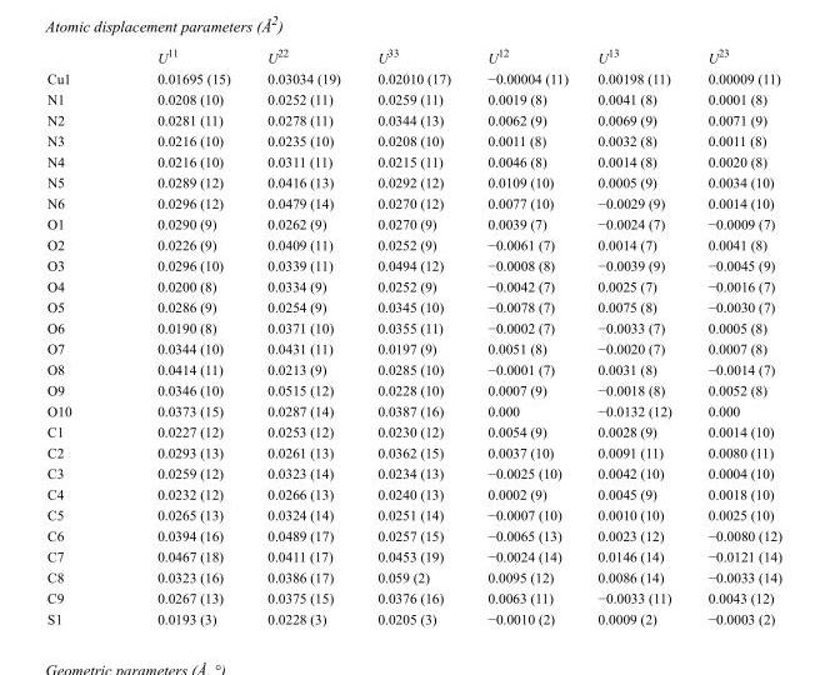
<table><thead><tr><td></td><td>U<sup>11</sup></td><td>U<sup>22</sup></td><td>U<sup>33</sup></td><td>U<sup>12</sup></td><td>U<sup>13</sup></td><td>U<sup>23</sup></td></tr></thead><tbody><tr><td>Cu1</td><td>0.01695 (15)</td><td>0.03034 (19)</td><td>0.02010 (17)</td><td>−0.00004 (11)</td><td>0.00198 (11)</td><td>0.00009 (11)</td></tr><tr><td>N1</td><td>0.0208 (10)</td><td>0.0252 (11)</td><td>0.0259 (11)</td><td>0.0019 (8)</td><td>0.0041 (8)</td><td>0.0001 (8)</td></tr><tr><td>N2</td><td>0.0281 (11)</td><td>0.0278 (11)</td><td>0.0344 (13)</td><td>0.0062 (9)</td><td>0.0069 (9)</td><td>0.0071 (9)</td></tr><tr><td>N3</td><td>0.0216 (10)</td><td>0.0235 (10)</td><td>0.0208 (10)</td><td>0.0011 (8)</td><td>0.0032 (8)</td><td>0.0011 (8)</td></tr><tr><td>N4</td><td>0.0216 (10)</td><td>0.0311 (11)</td><td>0.0215 (11)</td><td>0.0046 (8)</td><td>0.0014 (8)</td><td>0.0020 (8)</td></tr><tr><td>N5</td><td>0.0289 (12)</td><td>0.0416 (13)</td><td>0.0292 (12)</td><td>0.0109 (10)</td><td>0.0005 (9)</td><td>0.0034 (10)</td></tr><tr><td>N6</td><td>0.0296 (12)</td><td>0.0479 (14)</td><td>0.0270 (12)</td><td>0.0077 (10)</td><td>−0.0029 (9)</td><td>0.0014 (10)</td></tr><tr><td>O1</td><td>0.0290 (9)</td><td>0.0262 (9)</td><td>0.0270 (9)</td><td>0.0039 (7)</td><td>−0.0024 (7)</td><td>−0.0009 (7)</td></tr><tr><td>O2</td><td>0.0226 (9)</td><td>0.0409 (11)</td><td>0.0252 (9)</td><td>−0.0061 (7)</td><td>0.0014 (7)</td><td>0.0041 (8)</td></tr><tr><td>O3</td><td>0.0296 (10)</td><td>0.0339 (11)</td><td>0.0494 (12)</td><td>−0.0008 (8)</td><td>−0.0039 (9)</td><td>−0.0045 (9)</td></tr><tr><td>O4</td><td>0.0200 (8)</td><td>0.0334 (9)</td><td>0.0252 (9)</td><td>−0.0042 (7)</td><td>0.0025 (7)</td><td>−0.0016 (7)</td></tr><tr><td>O5</td><td>0.0286 (9)</td><td>0.0254 (9)</td><td>0.0345 (10)</td><td>−0.0078 (7)</td><td>0.0075 (8)</td><td>−0.0030 (7)</td></tr><tr><td>O6</td><td>0.0190 (8)</td><td>0.0371 (10)</td><td>0.0355 (11)</td><td>−0.0002 (7)</td><td>−0.0033 (7)</td><td>0.0005 (8)</td></tr><tr><td>O7</td><td>0.0344 (10)</td><td>0.0431 (11)</td><td>0.0197 (9)</td><td>0.0051 (8)</td><td>−0.0020 (7)</td><td>0.0007 (8)</td></tr><tr><td>O8</td><td>0.0414 (11)</td><td>0.0213 (9)</td><td>0.0285 (10)</td><td>−0.0001 (7)</td><td>0.0031 (8)</td><td>−0.0014 (7)</td></tr><tr><td>O9</td><td>0.0346 (10)</td><td>0.0515 (12)</td><td>0.0228 (10)</td><td>0.0007 (9)</td><td>−0.0018 (8)</td><td>0.0052 (8)</td></tr><tr><td>O10</td><td>0.0373 (15)</td><td>0.0287 (14)</td><td>0.0387 (16)</td><td>0.000</td><td>−0.0132 (12)</td><td>0.000</td></tr><tr><td>C1</td><td>0.0227 (12)</td><td>0.0253 (12)</td><td>0.0230 (12)</td><td>0.0054 (9)</td><td>0.0028 (9)</td><td>0.0014 (10)</td></tr><tr><td>C2</td><td>0.0293 (13)</td><td>0.0261 (13)</td><td>0.0362 (15)</td><td>0.0037 (10)</td><td>0.0091 (11)</td><td>0.0080 (11)</td></tr><tr><td>C3</td><td>0.0259 (12)</td><td>0.0323 (14)</td><td>0.0234 (13)</td><td>−0.0025 (10)</td><td>0.0042 (10)</td><td>0.0004 (10)</td></tr><tr><td>C4</td><td>0.0232 (12)</td><td>0.0266 (13)</td><td>0.0240 (13)</td><td>0.0002 (9)</td><td>0.0045 (9)</td><td>0.0018 (10)</td></tr><tr><td>C5</td><td>0.0265 (13)</td><td>0.0324 (14)</td><td>0.0251 (14)</td><td>−0.0007 (10)</td><td>0.0010 (10)</td><td>0.0025 (10)</td></tr><tr><td>C6</td><td>0.0394 (16)</td><td>0.0489 (17)</td><td>0.0257 (15)</td><td>−0.0065 (13)</td><td>0.0023 (12)</td><td>−0.0080 (12)</td></tr><tr><td>C7</td><td>0.0467 (18)</td><td>0.0411 (17)</td><td>0.0453 (19)</td><td>−0.0024 (14)</td><td>0.0146 (14)</td><td>−0.0121 (14)</td></tr><tr><td>C8</td><td>0.0323 (16)</td><td>0.0386 (17)</td><td>0.059 (2)</td><td>0.0095 (12)</td><td>0.0086 (14)</td><td>−0.0033 (14)</td></tr><tr><td>C9</td><td>0.0267 (13)</td><td>0.0375 (15)</td><td>0.0376 (16)</td><td>0.0063 (11)</td><td>−0.0033 (11)</td><td>0.0043 (12)</td></tr><tr><td>S1</td><td>0.0193 (3)</td><td>0.0228 (3)</td><td>0.0205 (3)</td><td>−0.0010 (2)</td><td>0.0009 (2)</td><td>−0.0003 (2)</td></tr></tbody></table>